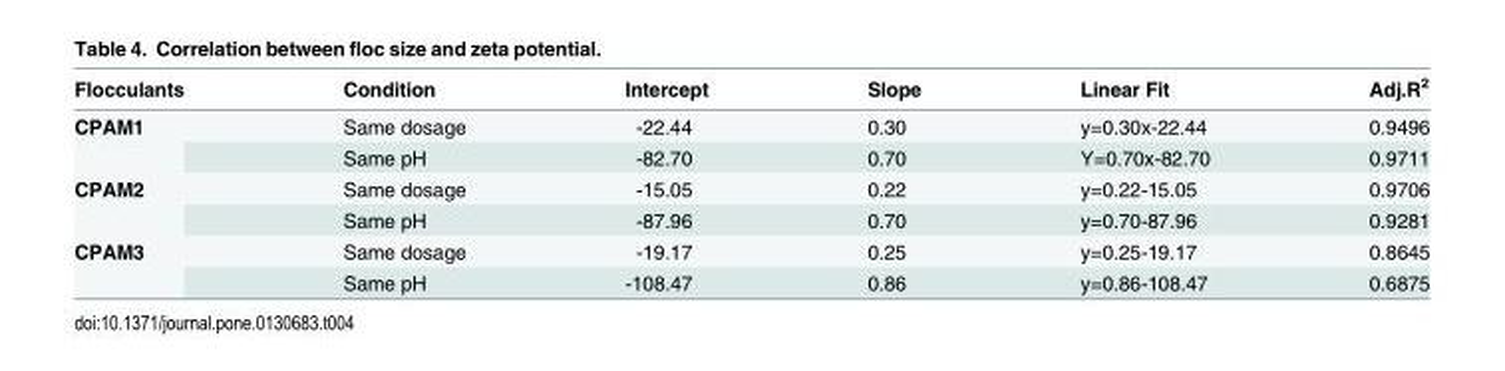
<table><thead><tr><td>Flocculants</td><td>Condition</td><td>Intercept</td><td>Slope</td><td>Linear Fit</td><td>Adj.R<sup>2</sup></td></tr></thead><tbody><tr><td rowspan="2">CPAM1</td><td>Same dosage</td><td>-22.44</td><td>0.30</td><td>y=0.30x-22.44</td><td>0.9496</td></tr><tr><td>Same pH</td><td>-82.70</td><td>0.70</td><td>Y=0.70x-82.70</td><td>0.9711</td></tr><tr><td rowspan="2">CPAM2</td><td>Same dosage</td><td>-15.05</td><td>0.22</td><td>y=0.22-15.05</td><td>0.9706</td></tr><tr><td>Same pH</td><td>-87.96</td><td>0.70</td><td>y=0.70-87.96</td><td>0.9281</td></tr><tr><td rowspan="2">CPAM3</td><td>Same dosage</td><td>-19.17</td><td>0.25</td><td>y=0.25-19.17</td><td>0.8645</td></tr><tr><td>Same pH</td><td>-108.47</td><td>0.86</td><td>y=0.86-108.47</td><td>0.6875</td></tr></tbody></table>